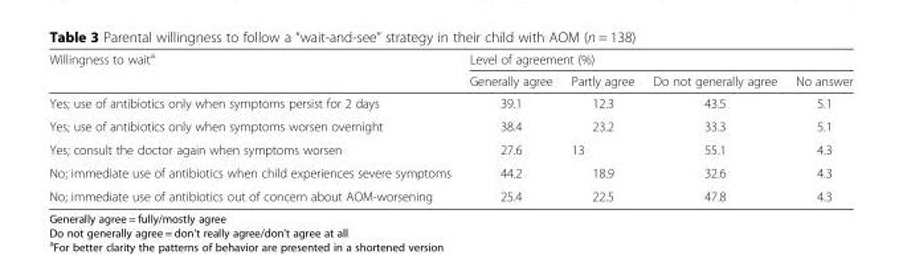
<table><thead><tr><td rowspan="2">Willingness to wait<sup>a</sup></td><td colspan="4">Level of agreement (%)</td></tr><tr><td>Generally agree</td><td>Partly agree</td><td>Do not generally agree</td><td>No answer</td></tr></thead><tbody><tr><td>Yes; use of antibiotics only when symptoms persist for 2 days</td><td>39.1</td><td>12.3</td><td>43.5</td><td>5.1</td></tr><tr><td>Yes; use of antibiotics only when symptoms worsen overnight</td><td>38.4</td><td>23.2</td><td>33.3</td><td>5.1</td></tr><tr><td>Yes; consult the doctor again when symptoms worsen</td><td>27.6</td><td>13</td><td>55.1</td><td>4.3</td></tr><tr><td>No; immediate use of antibiotics when child experiences severe symptoms</td><td>44.2</td><td>18.9</td><td>32.6</td><td>4.3</td></tr><tr><td>No; immediate use of antibiotics out of concern about AOM-worsening</td><td>25.4</td><td>22.5</td><td>47.8</td><td>4.3</td></tr></tbody></table>